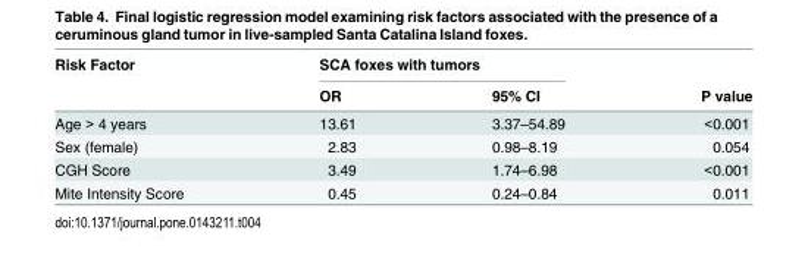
<table><thead><tr><td rowspan="2">Risk Factor</td><td colspan="2">SCA foxes with tumors</td><td rowspan="2">P value</td></tr><tr><td>OR</td><td>95% CI</td></tr></thead><tbody><tr><td>Age &gt; 4 years</td><td>13.61</td><td>3.37–54.89</td><td>&lt;0.001</td></tr><tr><td>Sex (female)</td><td>2.83</td><td>0.98–8.19</td><td>0.054</td></tr><tr><td>CGH Score</td><td>3.49</td><td>1.74–6.98</td><td>&lt;0.001</td></tr><tr><td>Mite Intensity Score</td><td>0.45</td><td>0.24–0.84</td><td>0.011</td></tr></tbody></table>